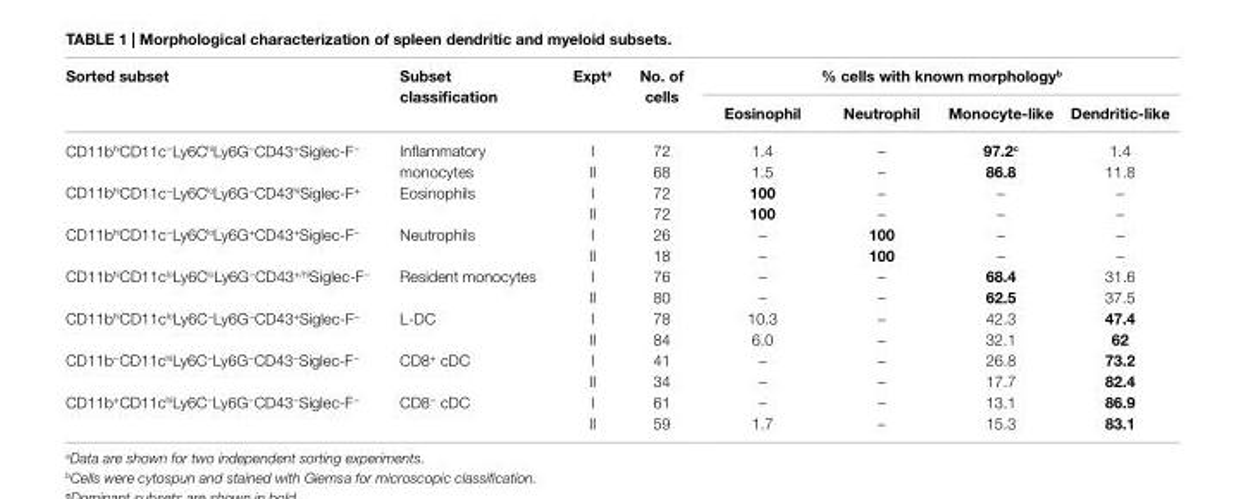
<table><thead><tr><td rowspan="2">sorted subset</td><td rowspan="2">subset classification</td><td rowspan="2">expt<sup>a</sup></td><td rowspan="2">no. of cells</td><td colspan="4">% cells with known morphology<sup>b</sup></td></tr><tr><td>eosinophil</td><td>neutrophil</td><td>Monocyte-like</td><td>Dendritic-like</td></tr></thead><tbody><tr><td rowspan="2">CD11b<sup>hi</sup>CD11c<sup>−</sup>Ly6C<sup>hi</sup>Ly6G<sup>−</sup>CD43<sup>+</sup>Siglec-F<sup>−</sup></td><td rowspan="2">Inflammatory monocytes</td><td>I</td><td>72</td><td>1.4</td><td>–</td><td>97.2<sup>c</sup></td><td>1.4</td></tr><tr><td>II</td><td>68</td><td>1.5</td><td>–</td><td>86.8</td><td>11.8</td></tr><tr><td rowspan="2">CD11b<sup>hi</sup>CD11c<sup>−</sup>Ly6C<sup>lo</sup>Ly6G<sup>−</sup>CD43<sup>hi</sup>Siglec-F<sup>+</sup></td><td rowspan="2">Eosinophils</td><td>I</td><td>72</td><td>100</td><td>–</td><td>–</td><td>–</td></tr><tr><td>II</td><td>72</td><td>100</td><td>–</td><td>–</td><td>–</td></tr><tr><td rowspan="2">CD11b<sup>hi</sup>CD11c<sup>−</sup>Ly6C<sup>lo</sup>Ly6G<sup>+</sup>CD43<sup>+</sup>Siglec-F<sup>−</sup></td><td rowspan="2">Neutrophils</td><td>I</td><td>26</td><td>–</td><td>100</td><td>–</td><td>–</td></tr><tr><td>II</td><td>18</td><td>–</td><td>100</td><td>–</td><td>–</td></tr><tr><td rowspan="2">CD11b<sup>hi</sup>CD11c<sup>lo</sup>Ly6C<sup>lo</sup>Ly6G<sup>−</sup>CD43<sup>+/hi</sup>Siglec-F<sup>−</sup></td><td rowspan="2">Resident monocytes</td><td>I</td><td>76</td><td>–</td><td>–</td><td>68.4</td><td>31.6</td></tr><tr><td>II</td><td>80</td><td>–</td><td>–</td><td>62.5</td><td>37.5</td></tr><tr><td rowspan="2">CD11b<sup>hi</sup>CD11c<sup>lo</sup>Ly6C<sup>−</sup>Ly6G<sup>−</sup>CD43<sup>+</sup>Siglec-F<sup>−</sup></td><td rowspan="2">L-DC</td><td>I</td><td>78</td><td>10.3</td><td>–</td><td>42.3</td><td>47.4</td></tr><tr><td>II</td><td>84</td><td>6.0</td><td>–</td><td>32.1</td><td>62</td></tr><tr><td rowspan="2">CD11b<sup>−</sup>CD11c<sup>hi</sup>Ly6C<sup>−</sup>Ly6G<sup>−</sup>CD43<sup>−</sup>Siglec-F<sup>−</sup></td><td rowspan="2">CD8<sup>+</sup> cDC</td><td>I</td><td>41</td><td>–</td><td>–</td><td>26.8</td><td>73.2</td></tr><tr><td>II</td><td>34</td><td>–</td><td>–</td><td>17.7</td><td>82.4</td></tr><tr><td rowspan="2">CD11b<sup>+</sup>CD11c<sup>hi</sup>Ly6C<sup>−</sup>Ly6G<sup>−</sup>CD43<sup>−</sup>Siglec-F<sup>−</sup></td><td rowspan="2">CD8<sup>−</sup> cDC</td><td>I</td><td>61</td><td>–</td><td>–</td><td>13.1</td><td>86.9</td></tr><tr><td>II</td><td>59</td><td>1.7</td><td>–</td><td>15.3</td><td>83.1</td></tr></tbody></table>